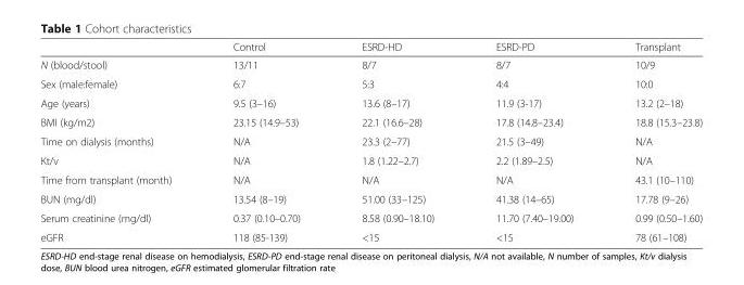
<table><thead><tr><td></td><td>Control</td><td>ESRD-HD</td><td>ESRD-PD</td><td>Transplant</td></tr></thead><tbody><tr><td>N (blood/stool)</td><td>13/11</td><td>8/7</td><td>8/7</td><td>10/9</td></tr><tr><td>Sex (male:female)</td><td>6:7</td><td>5:3</td><td>4:4</td><td>10:0</td></tr><tr><td>Age (years)</td><td>9.5 (3–16)</td><td>13.6 (8–17)</td><td>11.9 (3-17)</td><td>13.2 (2–18)</td></tr><tr><td>BMI (kg/m2)</td><td>23.15 (14.9–53)</td><td>22.1 (16.6–28)</td><td>17.8 (14.8–23.4)</td><td>18.8 (15.3–23.8)</td></tr><tr><td>Time on dialysis (months)</td><td>N/A</td><td>23.3 (2–77)</td><td>21.5 (3–49)</td><td>N/A</td></tr><tr><td>Kt/v</td><td>N/A</td><td>1.8 (1.22–2.7)</td><td>2.2 (1.89–2.5)</td><td>N/A</td></tr><tr><td>Time from transplant (month)</td><td>N/A</td><td>N/A</td><td>N/A</td><td>43.1 (10–110)</td></tr><tr><td>BUN (mg/dl)</td><td>13.54 (8–19)</td><td>51.00 (33–125)</td><td>41.38 (14–65)</td><td>17.78 (9–26)</td></tr><tr><td>Serum creatinine (mg/dl)</td><td>0.37 (0.10–0.70)</td><td>8.58 (0.90–18.10)</td><td>11.70 (7.40–19.00)</td><td>0.99 (0.50–1.60)</td></tr><tr><td>eGFR</td><td>118 (85-139)</td><td>&lt;15</td><td>&lt;15</td><td>78 (61–108)</td></tr></tbody></table>